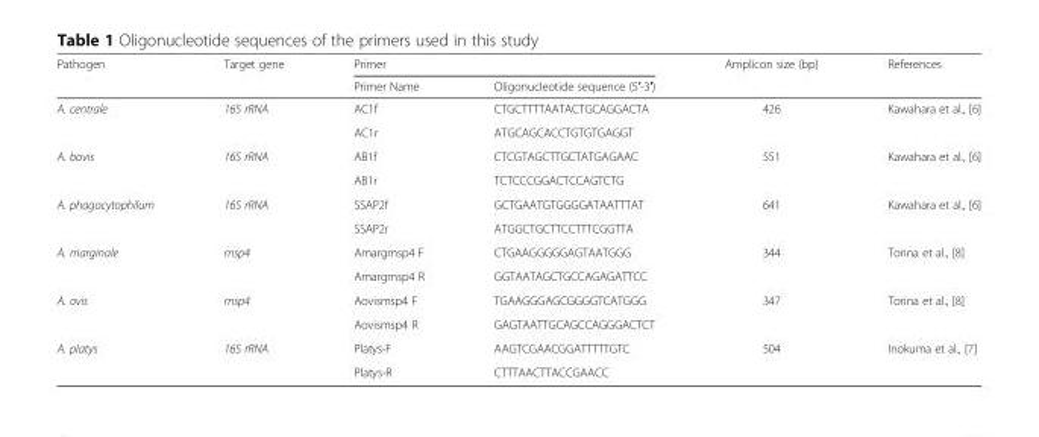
<table><thead><tr><td rowspan="2">Pathogen</td><td rowspan="2">Target gene</td><td colspan="2">Primer</td><td rowspan="2">Amplicon size (bp)</td><td rowspan="2">References</td></tr><tr><td>Primer Name</td><td>Oligonucleotide sequence (5′-3′)</td></tr></thead><tbody><tr><td rowspan="2">A. centrale</td><td rowspan="2">16S rRNA</td><td>AC1f</td><td>CTGCTTTTAATACTGCAGGACTA</td><td rowspan="2">426</td><td rowspan="2">Kawahara et al., [6]</td></tr><tr><td>AC1r</td><td>ATGCAGCACCTGTGTGAGGT</td></tr><tr><td rowspan="2">A. bovis</td><td rowspan="2">16S rRNA</td><td>AB1f</td><td>CTCGTAGCTTGCTATGAGAAC</td><td rowspan="2">551</td><td rowspan="2">Kawahara et al., [6]</td></tr><tr><td>AB1r</td><td>TCTCCCGGACTCCAGTCTG</td></tr><tr><td rowspan="2">A. phagocytophilum</td><td rowspan="2">16S rRNA</td><td>SSAP2f</td><td>GCTGAATGTGGGGATAATTTAT</td><td rowspan="2">641</td><td rowspan="2">Kawahara et al., [6]</td></tr><tr><td>SSAP2r</td><td>ATGGCTGCTTCCTTTCGGTTA</td></tr><tr><td rowspan="2">A. marginale</td><td rowspan="2">msp4</td><td>Amargmsp4 F</td><td>CTGAAGGGGGAGTAATGGG</td><td rowspan="2">344</td><td rowspan="2">Torina et al., [8]</td></tr><tr><td>Amargmsp4 R</td><td>GGTAATAGCTGCCAGAGATTCC</td></tr><tr><td rowspan="2">A. ovis</td><td rowspan="2">msp4</td><td>Aovismsp4 F</td><td>TGAAGGGAGCGGGGTCATGGG</td><td rowspan="2">347</td><td rowspan="2">Torina et al., [8]</td></tr><tr><td>Aovismsp4 R</td><td>GAGTAATTGCAGCCAGGGACTCT</td></tr><tr><td rowspan="2">A. platys</td><td rowspan="2">16S rRNA</td><td>Platys-F</td><td>AAGTCGAACGGATTTTTGTC</td><td rowspan="2">504</td><td rowspan="2">Inokuma et al., [7]</td></tr><tr><td>Platys-R</td><td>CTTTAACTTACCGAACC</td></tr></tbody></table>